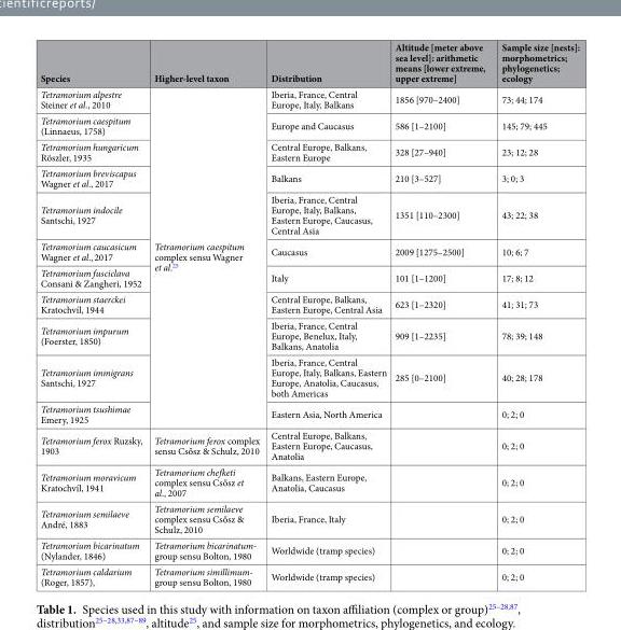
<table><thead><tr><td>Species</td><td>Higher-level taxon</td><td>Distribution</td><td>Altitude [meter above sea level]: arithmetic means [lower extreme, upper extreme]</td><td>Sample size [nests]: morphometrics; phylogenetics; ecology</td></tr></thead><tbody><tr><td>Tetramorium alpestre Steiner et al., 2010</td><td rowspan="11">Tetramorium caespitum complex sensu Wagner et al.<sup>25</sup></td><td>Iberia, France, Central Europe, Italy, Balkans</td><td>1856 [970–2400]</td><td>73; 44; 174</td></tr><tr><td>Tetramorium caespitum (Linnaeus, 1758)</td><td>Europe and Caucasus</td><td>586 [1–2100]</td><td>145; 79; 445</td></tr><tr><td>Tetramorium hungaricum Röszler, 1935</td><td>Central Europe, Balkans, Eastern Europe</td><td>328 [27–940]</td><td>23; 12; 28</td></tr><tr><td>Tetramorium breviscapus Wagner et al., 2017</td><td>Balkans</td><td>210 [3–527]</td><td>3; 0; 3</td></tr><tr><td>Tetramorium indocile Santschi, 1927</td><td>Iberia, France, Central Europe, Italy, Balkans, Eastern Europe, Caucasus, Central Asia</td><td>1351 [110–2300]</td><td>43; 22; 38</td></tr><tr><td>Tetramorium caucasicum Wagner et al., 2017</td><td>Caucasus</td><td>2009 [1275–2500]</td><td>10; 6; 7</td></tr><tr><td>Tetramorium fusciclava Consani &amp; Zangheri, 1952</td><td>Italy</td><td>101 [1–1200]</td><td>17; 8; 12</td></tr><tr><td>Tetramorium staerckei Kratochvíl, 1944</td><td>Central Europe, Balkans, Eastern Europe, Central Asia</td><td>623 [1–2320]</td><td>41; 31; 73</td></tr><tr><td>Tetramorium impurum (Foerster, 1850)</td><td>Iberia, France, Central Europe, Benelux, Italy, Balkans, Anatolia</td><td>909 [1–2235]</td><td>78; 39; 148</td></tr><tr><td>Tetramorium immigrans Santschi, 1927</td><td>Iberia, France, Central Europe, Italy, Balkans, Eastern Europe, Anatolia, Caucasus, both Americas</td><td>285 [0–2100]</td><td>40; 28; 178</td></tr><tr><td>Tetramorium tsushimae Emery, 1925</td><td>Eastern Asia, North America</td><td></td><td>0; 2; 0</td></tr><tr><td>Tetramorium ferox Ruzsky, 1903</td><td>Tetramorium ferox complex sensu Csősz &amp; Schulz, 2010</td><td>Central Europe, Balkans, Eastern Europe, Caucasus, Anatolia</td><td></td><td>0; 2; 0</td></tr><tr><td>Tetramorium moravicum Kratochvíl, 1941</td><td>Tetramorium chefketi complex sensu Csősz et al., 2007</td><td>Balkans, Eastern Europe, Anatolia, Caucasus</td><td></td><td>0; 2; 0</td></tr><tr><td>Tetramorium semilaeve André, 1883</td><td>Tetramorium semilaeve complex sensu Csősz &amp; Schulz, 2010</td><td>Iberia, France, Italy</td><td></td><td>0; 2; 0</td></tr><tr><td>Tetramorium bicarinatum (Nylander, 1846)</td><td>Tetramorium bicarinatum- group sensu Bolton, 1980</td><td>Worldwide (tramp species)</td><td></td><td>0; 2; 0</td></tr><tr><td>Tetramorium caldarium (Roger, 1857),</td><td>Tetramorium simillimum- group sensu Bolton, 1980</td><td>Worldwide (tramp species)</td><td></td><td>0; 2; 0</td></tr></tbody></table>